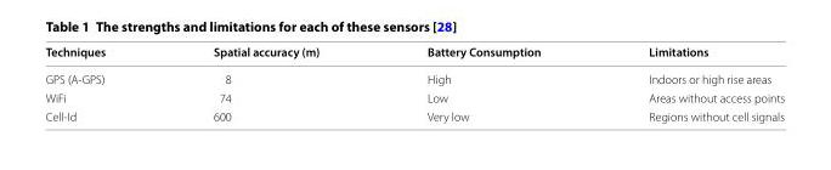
<table><thead><tr><td>Techniques</td><td>Spatial accuracy (m)</td><td>Battery Consumption</td><td>Limitations</td></tr></thead><tbody><tr><td>GPS (A-GPS)</td><td>8</td><td>High</td><td>Indoors or high rise areas</td></tr><tr><td>WiFi</td><td>74</td><td>Low</td><td>Areas without access points</td></tr><tr><td>Cell-Id</td><td>600</td><td>Very low</td><td>Regions without cell signals</td></tr></tbody></table>